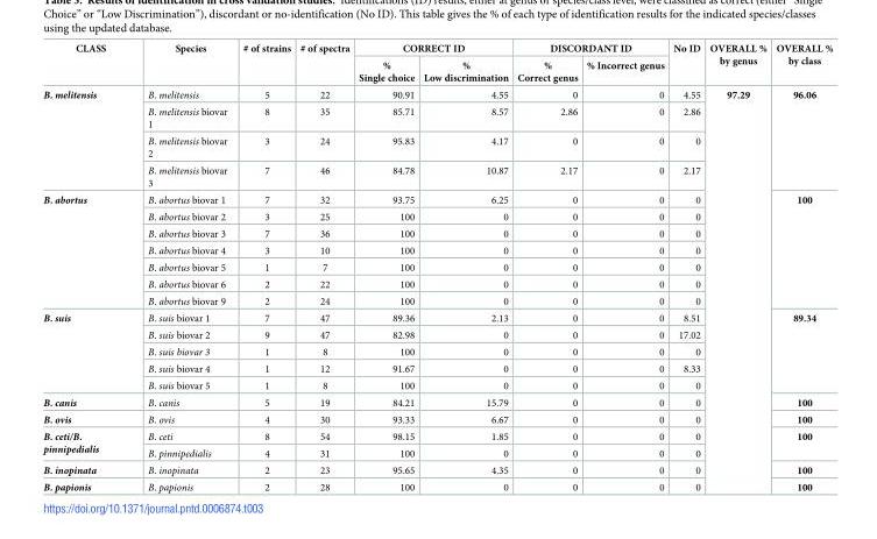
<table><thead><tr><td rowspan="2">CLASS</td><td rowspan="2">Species</td><td rowspan="2"># of strains</td><td rowspan="2"># of spectra</td><td colspan="2">CORRECT ID</td><td colspan="2">DISCORDANT ID</td><td rowspan="2">No ID</td><td rowspan="2">OVERALL % by genus</td><td rowspan="2">OVERALL % by class</td></tr><tr><td>% Single choice</td><td>% Low discrimination</td><td>% Correct genus</td><td>% Incorrect genus</td></tr></thead><tbody><tr><td rowspan="4">B. melitensis</td><td>B. melitensis</td><td>5</td><td>22</td><td>90.91</td><td>4.55</td><td>0</td><td>0</td><td>4.55</td><td rowspan="22">97.29</td><td rowspan="4">96.06</td></tr><tr><td>B. melitensis biovar 1</td><td>8</td><td>35</td><td>85.71</td><td>8.57</td><td>2.86</td><td>0</td><td>2.86</td></tr><tr><td>B. melitensis biovar 2</td><td>3</td><td>24</td><td>95.83</td><td>4.17</td><td>0</td><td>0</td><td>0</td></tr><tr><td>B. melitensis biovar 3</td><td>7</td><td>46</td><td>84.78</td><td>10.87</td><td>2.17</td><td>0</td><td>2.17</td></tr><tr><td rowspan="7">B. abortus</td><td>B. abortus biovar 1</td><td>7</td><td>32</td><td>93.75</td><td>6.25</td><td>0</td><td>0</td><td>0</td><td rowspan="7">100</td></tr><tr><td>B. abortus biovar 2</td><td>3</td><td>25</td><td>100</td><td>0</td><td>0</td><td>0</td><td>0</td></tr><tr><td>B. abortus biovar 3</td><td>7</td><td>36</td><td>100</td><td>0</td><td>0</td><td>0</td><td>0</td></tr><tr><td>B. abortus biovar 4</td><td>3</td><td>10</td><td>100</td><td>0</td><td>0</td><td>0</td><td>0</td></tr><tr><td>B. abortus biovar 5</td><td>1</td><td>7</td><td>100</td><td>0</td><td>0</td><td>0</td><td>0</td></tr><tr><td>B. abortus biovar 6</td><td>2</td><td>22</td><td>100</td><td>0</td><td>0</td><td>0</td><td>0</td></tr><tr><td>B. abortus biovar 9</td><td>2</td><td>24</td><td>100</td><td>0</td><td>0</td><td>0</td><td>0</td></tr><tr><td rowspan="5">B. suis</td><td>B. suis biovar 1</td><td>7</td><td>47</td><td>89.36</td><td>2.13</td><td>0</td><td>0</td><td>8.51</td><td rowspan="5">89.34</td></tr><tr><td>B. suis biovar 2</td><td>9</td><td>47</td><td>82.98</td><td>0</td><td>0</td><td>0</td><td>17.02</td></tr><tr><td>B. suis biovar 3</td><td>1</td><td>8</td><td>100</td><td>0</td><td>0</td><td>0</td><td>0</td></tr><tr><td>B. suis biovar 4</td><td>1</td><td>12</td><td>91.67</td><td>0</td><td>0</td><td>0</td><td>8.33</td></tr><tr><td>B. suis biovar 5</td><td>1</td><td>8</td><td>100</td><td>0</td><td>0</td><td>0</td><td>0</td></tr><tr><td>B. canis</td><td>B. canis</td><td>5</td><td>19</td><td>84.21</td><td>15.79</td><td>0</td><td>0</td><td>0</td><td>100</td></tr><tr><td>B. ovis</td><td>B. ovis</td><td>4</td><td>30</td><td>93.33</td><td>6.67</td><td>0</td><td>0</td><td>0</td><td>100</td></tr><tr><td rowspan="2">B. ceti/B. pinnipedialis</td><td>B. ceti</td><td>8</td><td>54</td><td>98.15</td><td>1.85</td><td>0</td><td>0</td><td>0</td><td rowspan="2">100</td></tr><tr><td>B. pinnipedialis</td><td>4</td><td>31</td><td>100</td><td>0</td><td>0</td><td>0</td><td>0</td></tr><tr><td>B. inopinata</td><td>B. inopinata</td><td>2</td><td>23</td><td>95.65</td><td>4.35</td><td>0</td><td>0</td><td>0</td><td>100</td></tr><tr><td>B. papionis</td><td>B. papionis</td><td>2</td><td>28</td><td>100</td><td>0</td><td>0</td><td>0</td><td>0</td><td>100</td></tr></tbody></table>